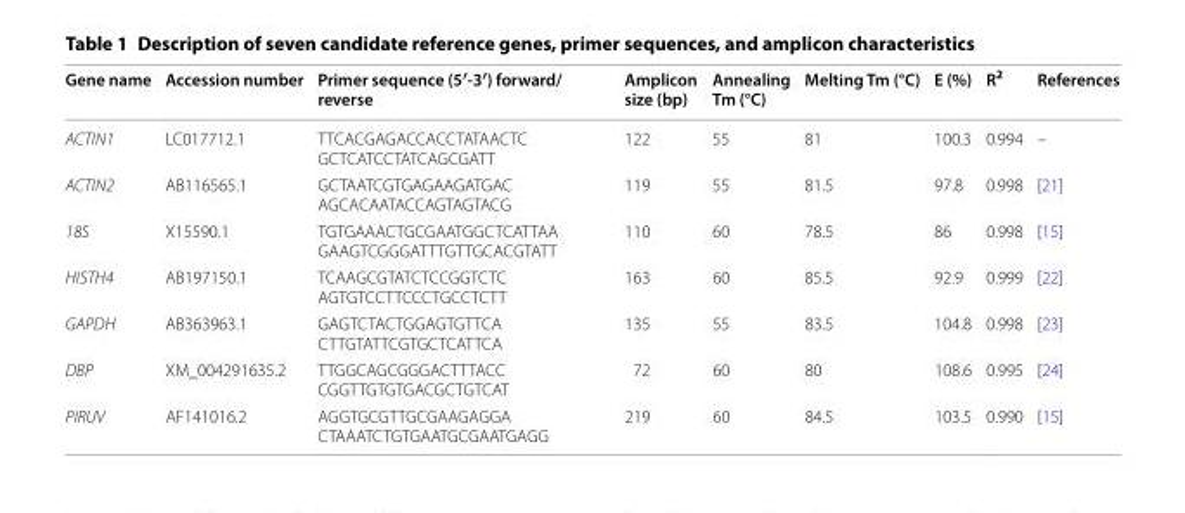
<table><thead><tr><td>Gene name</td><td>Accession number</td><td>Primer sequence (5′-3′) forward/ reverse</td><td>Amplicon size (bp)</td><td>Annealing Tm (°C)</td><td>Melting Tm (°C)</td><td>E (%)</td><td>R<sup>2</sup></td><td>References</td></tr></thead><tbody><tr><td>ACTIN1</td><td>LC017712.1</td><td>TTC ACG AGA CCA CCT ATA ACTC GCT CAT CCT ATC AGC GAT T</td><td>122</td><td>55</td><td>81</td><td>100.3</td><td>0.994</td><td>–</td></tr><tr><td>ACTIN2</td><td>AB116565.1</td><td>GCT AAT CGT GAG AAG ATG AC AGC ACA ATA CCA GTA GTA CG</td><td>119</td><td>55</td><td>81.5</td><td>97.8</td><td>0.998</td><td>[21]</td></tr><tr><td>18S</td><td>X15590.1</td><td>TGT GAA ACT GCG AAT GGC TCA TTA A GAA GTC GGG ATT TGT TGC ACG TAT T</td><td>110</td><td>60</td><td>78.5</td><td>86</td><td>0.998</td><td>[15]</td></tr><tr><td>HISTH4</td><td>AB197150.1</td><td>TCA AGC GTA TCT CCG GTC TC AGT GTC CTT CCC TGC CTC TT</td><td>163</td><td>60</td><td>85.5</td><td>92.9</td><td>0.999</td><td>[22]</td></tr><tr><td>GAPDH</td><td>AB363963.1</td><td>GAG TCT ACT GGA GTG TTC A CTT GTA TTC GTG CTC ATT CA</td><td>135</td><td>55</td><td>83.5</td><td>104.8</td><td>0.998</td><td>[23]</td></tr><tr><td>DBP</td><td>XM_004291635.2</td><td>TTG GCA GCG GGA CTT TAC C CGG TTG TGT GAC GCT GTC AT</td><td>72</td><td>60</td><td>80</td><td>108.6</td><td>0.995</td><td>[24]</td></tr><tr><td>PIRUV</td><td>AF141016.2</td><td>AGG TGC GTT GCG AAG AGG A CTA AAT CTG TGA ATG CGA ATG AGG</td><td>219</td><td>60</td><td>84.5</td><td>103.5</td><td>0.990</td><td>[15]</td></tr></tbody></table>